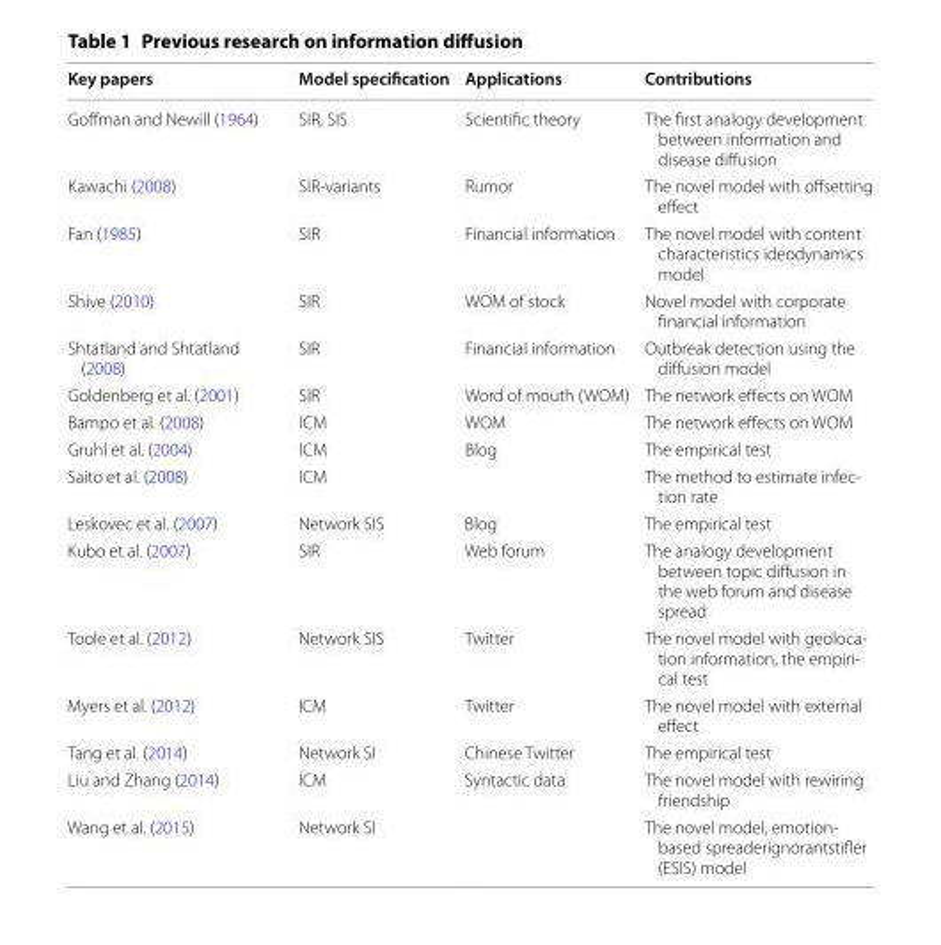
<table><thead><tr><td>Key papers</td><td>Model specification</td><td>Applications</td><td>Contributions</td></tr></thead><tbody><tr><td>Goffman and Newill (1964)</td><td>SIR, SIS</td><td>Scientific theory</td><td>The first analogy development between information and disease diffusion</td></tr><tr><td>Kawachi (2008)</td><td>SIR-variants</td><td>Rumor</td><td>The novel model with offsetting effect</td></tr><tr><td>Fan (1985)</td><td>SIR</td><td>Financial information</td><td>The novel model with content characteristics ideodynamics model</td></tr><tr><td>Shive (2010)</td><td>SIR</td><td>WOM of stock</td><td>Novel model with corporate financial information</td></tr><tr><td>Shtatland and Shtatland (2008)</td><td>SIR</td><td>Financial information</td><td>Outbreak detection using the diffusion model</td></tr><tr><td>Goldenberg et al. (2001)</td><td>SIR</td><td>Word of mouth (WOM)</td><td>The network effects on WOM</td></tr><tr><td>Bampo et al. (2008)</td><td>ICM</td><td>WOM</td><td>The network effects on WOM</td></tr><tr><td>Gruhl et al. (2004)</td><td>ICM</td><td>Blog</td><td>The empirical test</td></tr><tr><td>Saito et al. (2008)</td><td>ICM</td><td></td><td>The method to estimate infec- tion rate</td></tr><tr><td>Leskovec et al. (2007)</td><td>Network SIS</td><td>Blog</td><td>The empirical test</td></tr><tr><td>Kubo et al. (2007)</td><td>SIR</td><td>Web forum</td><td>The analogy development between topic diffusion in the web forum and disease spread</td></tr><tr><td>Toole et al. (2012)</td><td>Network SIS</td><td>Twitter</td><td>The novel model with geoloca- tion information, the empiri- cal test</td></tr><tr><td>Myers et al. (2012)</td><td>ICM</td><td>Twitter</td><td>The novel model with external effect</td></tr><tr><td>Tang et al. (2014)</td><td>Network SI</td><td>Chinese Twitter</td><td>The empirical test</td></tr><tr><td>Liu and Zhang (2014)</td><td>ICM</td><td>Syntactic data</td><td>The novel model with rewiring friendship</td></tr><tr><td>Wang et al. (2015)</td><td>Network SI</td><td></td><td>The novel model, emotion- based spreaderignorantstifler (ESIS) model</td></tr></tbody></table>